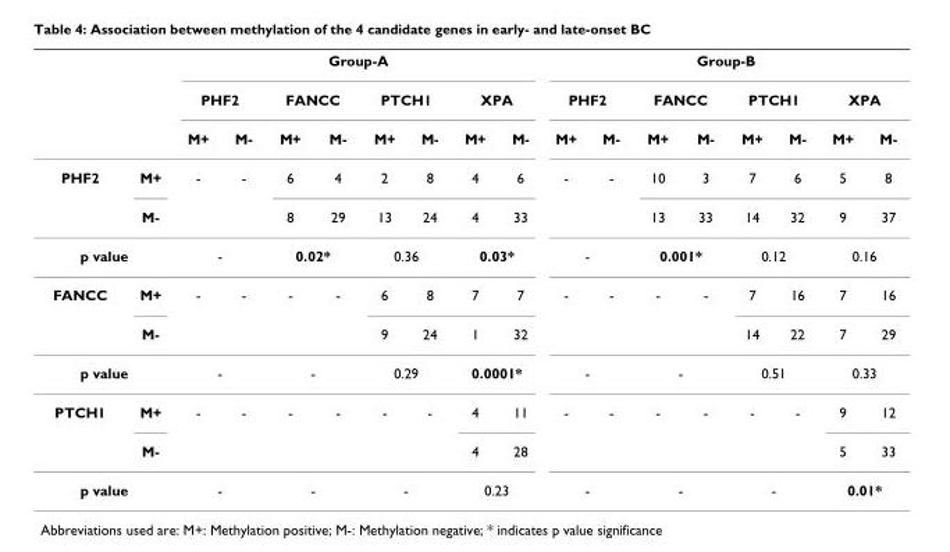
<table><thead><tr><td rowspan="3"></td><td rowspan="3"></td><td colspan="8">Group-A</td><td colspan="8">Group-B</td></tr><tr><td colspan="2">PHF2</td><td colspan="2">FANCC</td><td colspan="2">PTCH1</td><td colspan="2">XPA</td><td colspan="2">PHF2</td><td colspan="2">FANCC</td><td colspan="2">PTCH1</td><td colspan="2">XPA</td></tr><tr><td>M+</td><td>M-</td><td>M+</td><td>M-</td><td>M+</td><td>M-</td><td>M+</td><td>M-</td><td>M+</td><td>M-</td><td>M+</td><td>M-</td><td>M+</td><td>M-</td><td>M+</td><td>M-</td></tr></thead><tbody><tr><td rowspan="2">PHF2</td><td>M+</td><td>-</td><td>-</td><td>6</td><td>4</td><td>2</td><td>8</td><td>4</td><td>6</td><td>-</td><td>-</td><td>10</td><td>3</td><td>7</td><td>6</td><td>5</td><td>8</td></tr><tr><td>M-</td><td></td><td></td><td>8</td><td>29</td><td>13</td><td>24</td><td>4</td><td>33</td><td></td><td></td><td>13</td><td>33</td><td>14</td><td>32</td><td>9</td><td>37</td></tr><tr><td colspan="2">p value</td><td colspan="2">-</td><td colspan="2">0.02*</td><td colspan="2">0.36</td><td colspan="2">0.03*</td><td colspan="2">-</td><td colspan="2">0.001*</td><td colspan="2">0.12</td><td colspan="2">0.16</td></tr><tr><td rowspan="2">FANCC</td><td>M+</td><td>-</td><td>-</td><td>-</td><td>-</td><td>6</td><td>8</td><td>7</td><td>7</td><td>-</td><td>-</td><td>-</td><td>-</td><td>7</td><td>16</td><td>7</td><td>16</td></tr><tr><td>M-</td><td></td><td></td><td></td><td></td><td>9</td><td>24</td><td>1</td><td>32</td><td></td><td></td><td></td><td></td><td>14</td><td>22</td><td>7</td><td>29</td></tr><tr><td colspan="2">p value</td><td colspan="2">-</td><td colspan="2">-</td><td colspan="2">0.29</td><td colspan="2">0.0001*</td><td colspan="2">-</td><td colspan="2">-</td><td colspan="2">0.51</td><td colspan="2">0.33</td></tr><tr><td rowspan="2">PTCH1</td><td>M+</td><td>-</td><td>-</td><td>-</td><td>-</td><td>-</td><td>-</td><td>4</td><td>11</td><td>-</td><td>-</td><td>-</td><td>-</td><td>-</td><td>-</td><td>9</td><td>12</td></tr><tr><td>M-</td><td></td><td></td><td></td><td></td><td></td><td></td><td>4</td><td>28</td><td></td><td></td><td></td><td></td><td></td><td></td><td>5</td><td>33</td></tr><tr><td colspan="2">p value</td><td colspan="2">-</td><td colspan="2">-</td><td colspan="2">-</td><td colspan="2">0.23</td><td colspan="2">-</td><td colspan="2">-</td><td colspan="2">-</td><td colspan="2">0.01*</td></tr></tbody></table>